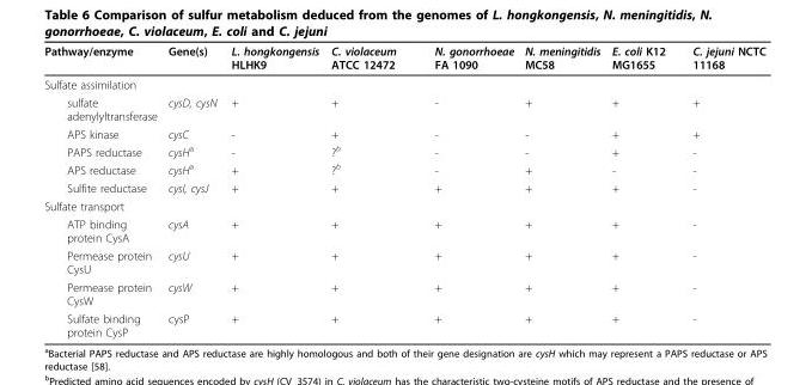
<table><thead><tr><td>Pathway/enzyme</td><td>Gene(s)</td><td>L. hongkongensis HLHK9</td><td>C. violaceum ATCC 12472</td><td>N. gonorrhoeae FA 1090</td><td>N. meningitidis MC58</td><td>E. coli K12 MG1655</td><td>C. jejuni NCTC 11168</td></tr></thead><tbody><tr><td colspan="8">Sulfate assimilation</td></tr><tr><td>sulfate adenylyltransferase</td><td>cysD, cysN</td><td>+</td><td>+</td><td>-</td><td>+</td><td>+</td><td>+</td></tr><tr><td>APS kinase</td><td>cysC</td><td>-</td><td>+</td><td>-</td><td>-</td><td>+</td><td>+</td></tr><tr><td>PAPS reductase</td><td>cysH<sup>a</sup></td><td>-</td><td>?<sup>b</sup></td><td>-</td><td>-</td><td>+</td><td>-</td></tr><tr><td>APS reductase</td><td>cysH<sup>a</sup></td><td>+</td><td>?<sup>b</sup></td><td>-</td><td>+</td><td>-</td><td>-</td></tr><tr><td>Sulfite reductase</td><td>cysI, cysJ</td><td>+</td><td>+</td><td>+</td><td>+</td><td>+</td><td>-</td></tr><tr><td colspan="8">Sulfate transport</td></tr><tr><td>ATP binding protein CysA</td><td>cysA</td><td>+</td><td>+</td><td>+</td><td>+</td><td>+</td><td>-</td></tr><tr><td>Permease protein CysU</td><td>cysU</td><td>+</td><td>+</td><td>+</td><td>+</td><td>+</td><td>-</td></tr><tr><td>Permease protein CysW</td><td>cysW</td><td>+</td><td>+</td><td>+</td><td>+</td><td>+</td><td>-</td></tr><tr><td>Sulfate binding protein CysP</td><td>cysP</td><td>+</td><td>+</td><td>+</td><td>+</td><td>+</td><td>-</td></tr></tbody></table>